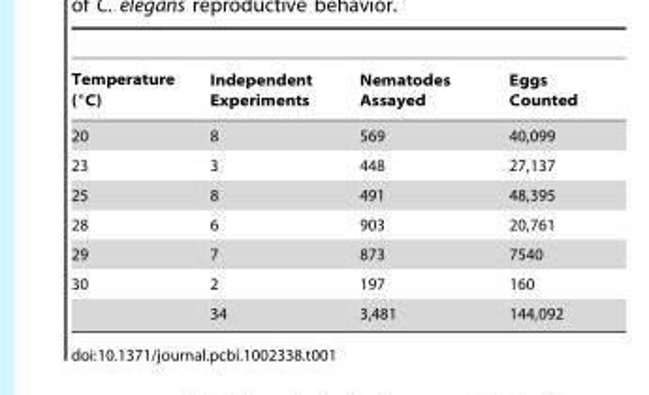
<table><thead><tr><td>Temperature (°C)</td><td>Independent Experiments</td><td>Nematodes Assayed</td><td>Eggs Counted</td></tr></thead><tbody><tr><td>20</td><td>8</td><td>569</td><td>40,099</td></tr><tr><td>23</td><td>3</td><td>448</td><td>27,137</td></tr><tr><td>25</td><td>8</td><td>491</td><td>48,395</td></tr><tr><td>28</td><td>6</td><td>903</td><td>20,761</td></tr><tr><td>29</td><td>7</td><td>873</td><td>7540</td></tr><tr><td rowspan="2">30</td><td>2</td><td>197</td><td>160</td></tr><tr><td>34</td><td>3,481</td><td>144,092</td></tr></tbody></table>